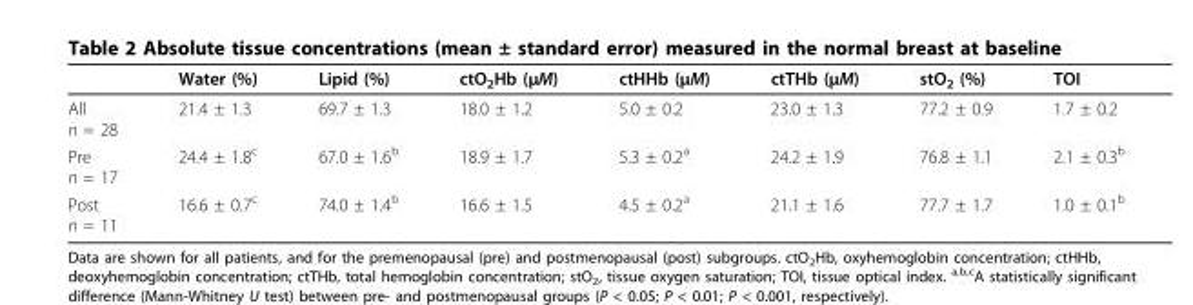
<table><thead><tr><td></td><td>Water (%)</td><td>Lipid (%)</td><td>ctO<sub>2</sub>Hb (µM)</td><td>ctHHb (µM)</td><td>ctTHb (µM)</td><td>stO<sub>2</sub> (%)</td><td>TOI</td></tr></thead><tbody><tr><td>All n = 28</td><td>21.4 ± 1.3</td><td>69.7 ± 1.3</td><td>18.0 ± 1.2</td><td>5.0 ± 0.2</td><td>23.0 ± 1.3</td><td>77.2 ± 0.9</td><td>1.7 ± 0.2</td></tr><tr><td>Pre n = 17</td><td>24.4 ± 1.8<sup>c</sup></td><td>67.0 ± 1.6<sup>b</sup></td><td>18.9 ± 1.7</td><td>5.3 ± 0.2<sup>a</sup></td><td>24.2 ± 1.9</td><td>76.8 ± 1.1</td><td>2.1 ± 0.3<sup>b</sup></td></tr><tr><td>Post n = 11</td><td>16.6 ± 0.7<sup>c</sup></td><td>74.0 ± 1.4<sup>b</sup></td><td>16.6 ± 1.5</td><td>4.5 ± 0.2<sup>a</sup></td><td>21.1 ± 1.6</td><td>77.7 ± 1.7</td><td>1.0 ± 0.1<sup>b</sup></td></tr></tbody></table>